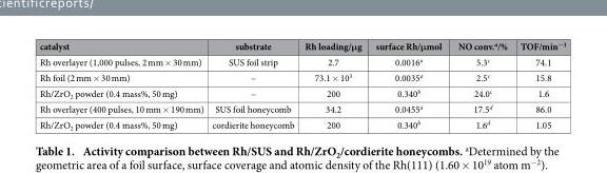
<table><thead><tr><td>catalyst</td><td>substrate</td><td>Rh loading/μg</td><td>surface Rh/μmol</td><td>NO conv.<sup>a</sup>/%</td><td>TOF/min<sup>−1</sup></td></tr></thead><tbody><tr><td>Rh overlayer (1,000 pulses, 2 mm × 30 mm)</td><td>SUS foil strip</td><td>2.7</td><td>0.0016<sup>a</sup></td><td>5.3<sup>c</sup></td><td>74.1</td></tr><tr><td>Rh foil (2 mm × 30 mm)</td><td>–</td><td>73.1 × 10<sup>3</sup></td><td>0.0035<sup>a</sup></td><td>2.5<sup>c</sup></td><td>15.8</td></tr><tr><td>Rh/ZrO<sub>2</sub> powder (0.4 mass%, 50 mg)</td><td>–</td><td>200</td><td>0.340<sup>b</sup></td><td>24.0<sup>c</sup></td><td>1.6</td></tr><tr><td>Rh overlayer (400 pulses, 10 mm × 190 mm)</td><td>SUS foil honeycomb</td><td>34.2</td><td>0.0455<sup>a</sup></td><td>17.5<sup>d</sup></td><td>86.0</td></tr><tr><td>Rh/ZrO<sub>2</sub> powder (0.4 mass%, 50 mg)</td><td>cordierite honeycomb</td><td>200</td><td>0.340<sup>b</sup></td><td>1.6<sup>d</sup></td><td>1.05</td></tr></tbody></table>